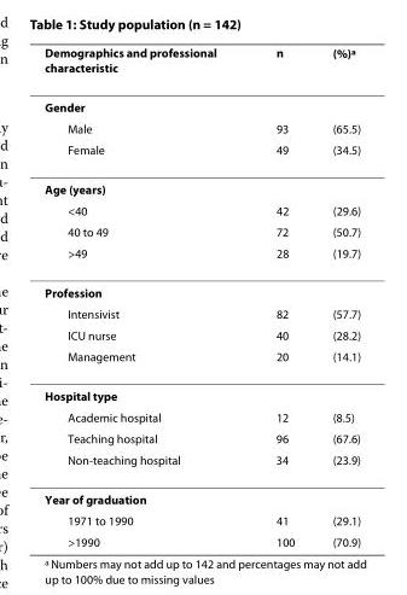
<table><thead><tr><td>Demographics and professional characteristic</td><td>n</td><td>(%)<sup>a</sup></td></tr></thead><tbody><tr><td colspan="3">Gender</td></tr><tr><td>Male</td><td>93</td><td>(65.5)</td></tr><tr><td>Female</td><td>49</td><td>(34.5)</td></tr><tr><td colspan="3">Age (years)</td></tr><tr><td>&lt;40</td><td>42</td><td>(29.6)</td></tr><tr><td>40 to 49</td><td>72</td><td>(50.7)</td></tr><tr><td>&gt;49</td><td>28</td><td>(19.7)</td></tr><tr><td colspan="3">Profession</td></tr><tr><td>Intensivist</td><td>82</td><td>(57.7)</td></tr><tr><td>ICU nurse</td><td>40</td><td>(28.2)</td></tr><tr><td>Management</td><td>20</td><td>(14.1)</td></tr><tr><td colspan="3">Hospital type</td></tr><tr><td>Academic hospital</td><td>12</td><td>(8.5)</td></tr><tr><td>Teaching hospital</td><td>96</td><td>(67.6)</td></tr><tr><td>Non-teaching hospital</td><td>34</td><td>(23.9)</td></tr><tr><td colspan="3">Year of graduation</td></tr><tr><td>1971 to 1990</td><td>41</td><td>(29.1)</td></tr><tr><td>&gt;1990</td><td>100</td><td>(70.9)</td></tr></tbody></table>